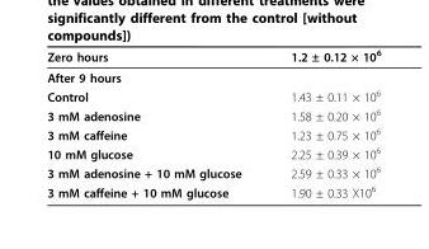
<table><thead><tr><td>Zero hours</td><td>1.2 ± 0.12 × 10<sup>6</sup></td></tr></thead><tbody><tr><td colspan="2">After 9 hours</td></tr><tr><td>Control</td><td>1.43 ± 0.11 × 10<sup>6</sup></td></tr><tr><td>3 mM adenosine</td><td>1.58 ± 0.20 × 10<sup>6</sup></td></tr><tr><td>3 mM caffeine</td><td>1.23 ± 0.75 × 10<sup>6</sup></td></tr><tr><td>10 mM glucose</td><td>2.25 ± 0.39 × 10<sup>6</sup></td></tr><tr><td>3 mM adenosine + 10 mM glucose</td><td>2.59 ± 0.33 × 10<sup>6</sup></td></tr><tr><td>3 mM caffeine + 10 mM glucose</td><td>1.90 ± 0.33 X10<sup>6</sup></td></tr></tbody></table>